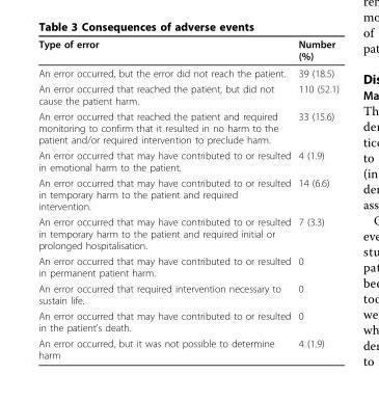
<table><thead><tr><td>Type of error</td><td>Number (%)</td></tr></thead><tbody><tr><td>An error occurred, but the error did not reach the patient.</td><td>39 (18.5)</td></tr><tr><td>An error occurred that reached the patient, but did not cause the patient harm.</td><td>110 (52.1)</td></tr><tr><td>An error occurred that reached the patient and required monitoring to confirm that it resulted in no harm to the patient and/or required intervention to preclude harm.</td><td>33 (15.6)</td></tr><tr><td>An error occurred that may have contributed to or resulted in emotional harm to the patient.</td><td>4 (1.9)</td></tr><tr><td>An error occurred that may have contributed to or resulted in temporary harm to the patient and required intervention.</td><td>14 (6.6)</td></tr><tr><td>An error occurred that may have contributed to or resulted in temporary harm to the patient and required initial or prolonged hospitalisation.</td><td>7 (3.3)</td></tr><tr><td>An error occurred that may have contributed to or resulted in permanent patient harm.</td><td>0</td></tr><tr><td>An error occurred that required intervention necessary to sustain life.</td><td>0</td></tr><tr><td>An error occurred that may have contributed to or resulted in the patient’s death.</td><td>0</td></tr><tr><td>An error occurred, but it was not possible to determine harm</td><td>4 (1.9)</td></tr></tbody></table>